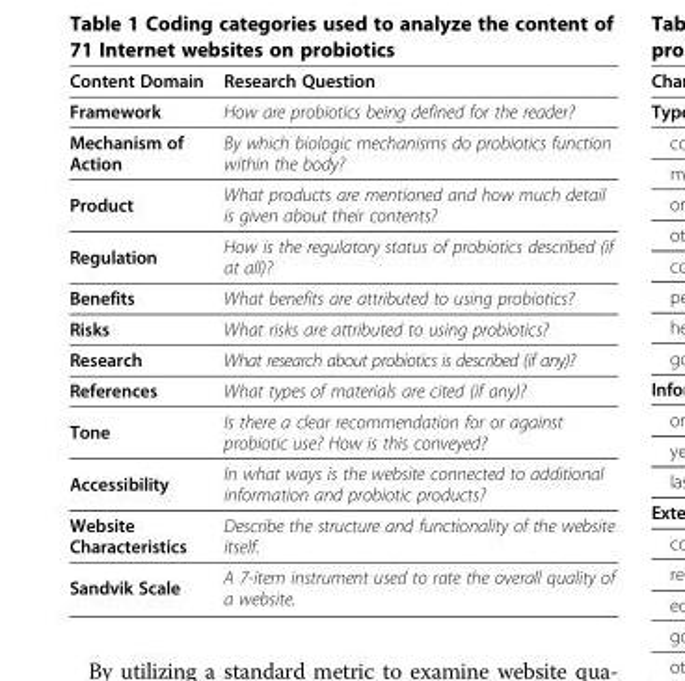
<table><thead><tr><td>Content Domain</td><td>Research Question</td></tr></thead><tbody><tr><td>Framework</td><td>How are probiotics being defined for the reader?</td></tr><tr><td>Mechanism of Action</td><td>By which biologic mechanisms do probiotics function within the body?</td></tr><tr><td>Product</td><td>What products are mentioned and how much detail is given about their contents?</td></tr><tr><td>Regulation</td><td>How is the regulatory status of probiotics described (if at all)?</td></tr><tr><td>Benefits</td><td>What benefits are attributed to using probiotics?</td></tr><tr><td>Risks</td><td>What risks are attributed to using probiotics?</td></tr><tr><td>Research</td><td>What research about probiotics is described (if any)?</td></tr><tr><td>References</td><td>What types of materials are cited (if any)?</td></tr><tr><td>Tone</td><td>Is there a clear recommendation for or against probiotic use? How is this conveyed?</td></tr><tr><td>Accessibility</td><td>In what ways is the website connected to additional information and probiotic products?</td></tr><tr><td>Website Characteristics</td><td>Describe the structure and functionality of the website itself.</td></tr><tr><td>Sandvik Scale</td><td>A 7-item instrument used to rate the overall quality of a website.</td></tr></tbody></table>